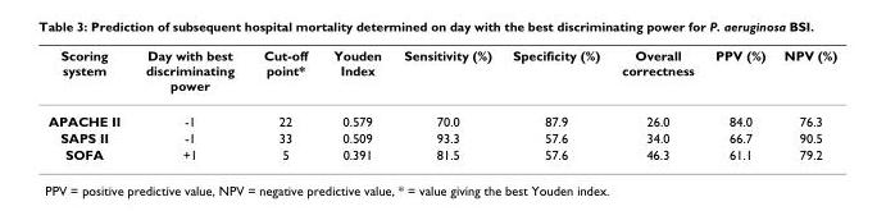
<table><thead><tr><td>Scoring system</td><td>Day with best discriminating power</td><td>Cut-off point*</td><td>Youden Index</td><td>Sensitivity (%)</td><td>Specificity (%)</td><td>Overall correctness</td><td>PPV (%)</td><td>NPV (%)</td></tr></thead><tbody><tr><td>APACHE II</td><td>-1</td><td>22</td><td>0.579</td><td>70.0</td><td>87.9</td><td>26.0</td><td>84.0</td><td>76.3</td></tr><tr><td>SAPS II</td><td>-1</td><td>33</td><td>0.509</td><td>93.3</td><td>57.6</td><td>34.0</td><td>66.7</td><td>90.5</td></tr><tr><td>SOFA</td><td>+1</td><td>5</td><td>0.391</td><td>81.5</td><td>57.6</td><td>46.3</td><td>61.1</td><td>79.2</td></tr></tbody></table>